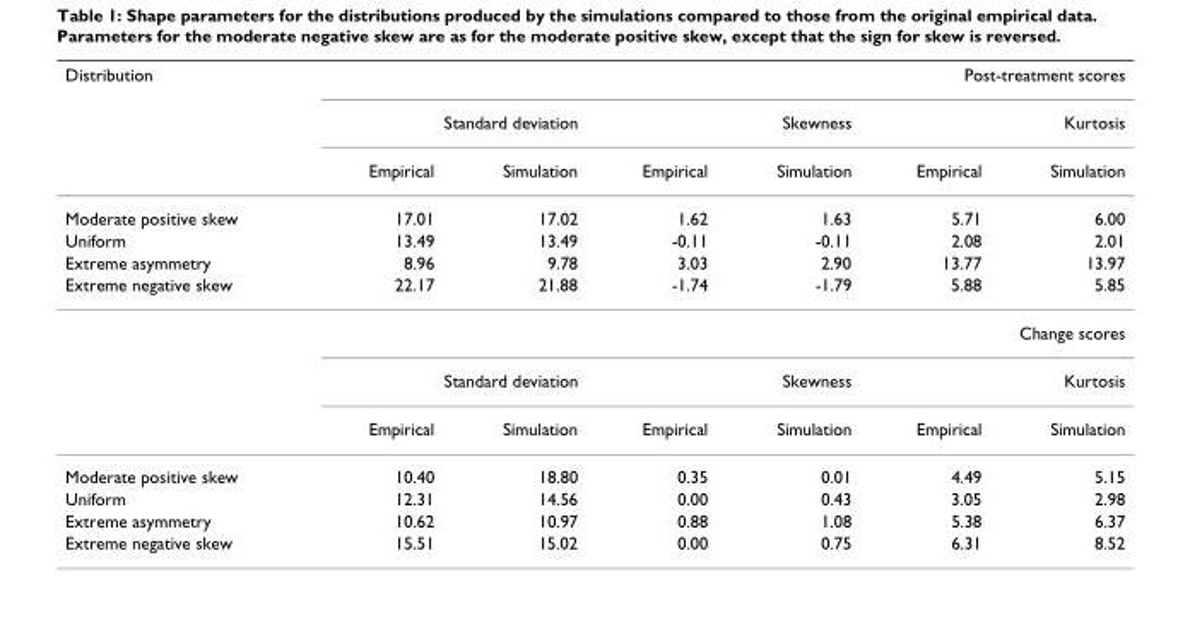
<table><thead><tr><td rowspan="3">Distribution</td><td colspan="6">Post-treatment scores</td></tr><tr><td colspan="2">Standard deviation</td><td colspan="2">Skewness</td><td colspan="2">Kurtosis</td></tr><tr><td>Empirical</td><td>Simulation</td><td>Empirical</td><td>Simulation</td><td>Empirical</td><td>Simulation</td></tr></thead><tbody><tr><td>Moderate positive skew</td><td>17.01</td><td>17.02</td><td>1.62</td><td>1.63</td><td>5.71</td><td>6.00</td></tr><tr><td>Uniform</td><td>13.49</td><td>13.49</td><td>-0.11</td><td>-0.11</td><td>2.08</td><td>2.01</td></tr><tr><td>Extreme asymmetry</td><td>8.96</td><td>9.78</td><td>3.03</td><td>2.90</td><td>13.77</td><td>13.97</td></tr><tr><td rowspan="4">Extreme negative skew</td><td>22.17</td><td>21.88</td><td>-1.74</td><td>-1.79</td><td>5.88</td><td>5.85</td></tr><tr><td colspan="6">Change scores</td></tr><tr><td colspan="2">Standard deviation</td><td colspan="2">Skewness</td><td colspan="2">Kurtosis</td></tr><tr><td>Empirical</td><td>Simulation</td><td>Empirical</td><td>Simulation</td><td>Empirical</td><td>Simulation</td></tr><tr><td>Moderate positive skew</td><td>10.40</td><td>18.80</td><td>0.35</td><td>0.01</td><td>4.49</td><td>5.15</td></tr><tr><td>Uniform</td><td>12.31</td><td>14.56</td><td>0.00</td><td>0.43</td><td>3.05</td><td>2.98</td></tr><tr><td>Extreme asymmetry</td><td>10.62</td><td>10.97</td><td>0.88</td><td>1.08</td><td>5.38</td><td>6.37</td></tr><tr><td>Extreme negative skew</td><td>15.51</td><td>15.02</td><td>0.00</td><td>0.75</td><td>6.31</td><td>8.52</td></tr></tbody></table>